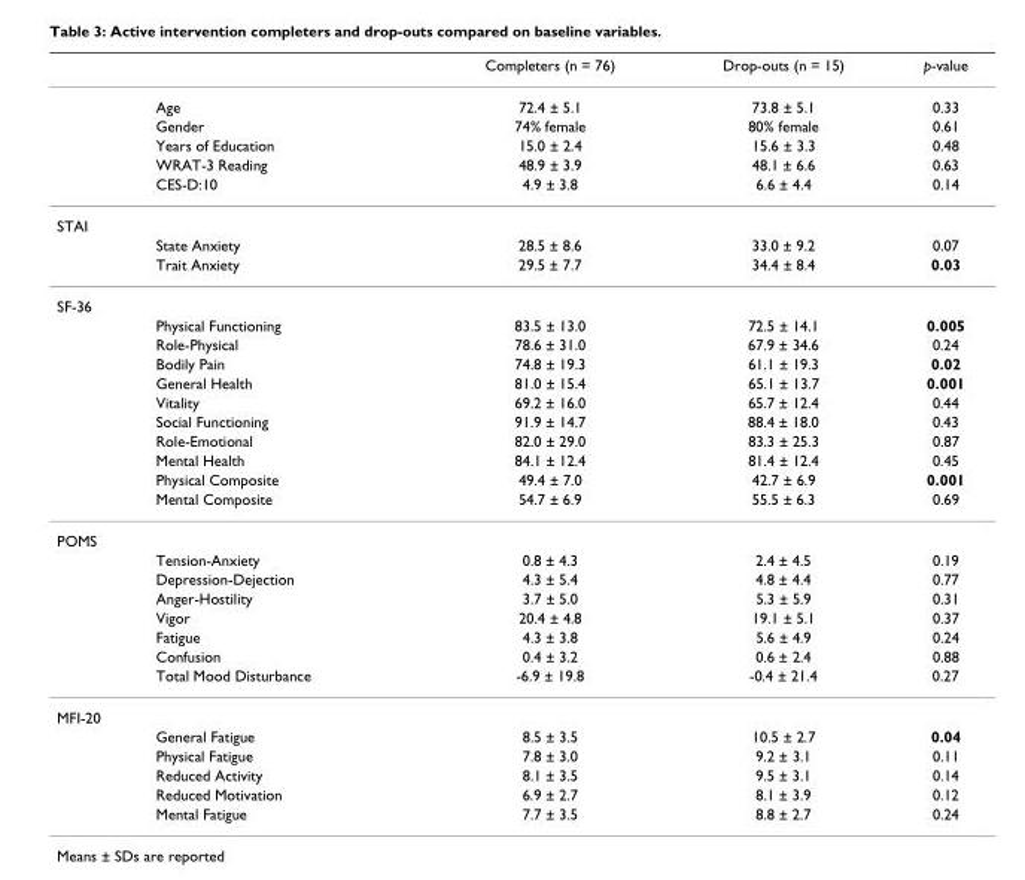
<table><thead><tr><td></td><td></td><td>Completers (n = 76)</td><td>Drop-outs (n = 15)</td><td>p-value</td></tr></thead><tbody><tr><td></td><td>Age</td><td>72.4 ± 5.1</td><td>73.8 ± 5.1</td><td>0.33</td></tr><tr><td></td><td>Gender</td><td>74% female</td><td>80% female</td><td>0.61</td></tr><tr><td></td><td>Years of Education</td><td>15.0 ± 2.4</td><td>15.6 ± 3.3</td><td>0.48</td></tr><tr><td></td><td>WRAT-3 Reading</td><td>48.9 ± 3.9</td><td>48.1 ± 6.6</td><td>0.63</td></tr><tr><td></td><td>CES-D:10</td><td>4.9 ± 3.8</td><td>6.6 ± 4.4</td><td>0.14</td></tr><tr><td colspan="5">STAI</td></tr><tr><td></td><td>State Anxiety</td><td>28.5 ± 8.6</td><td>33.0 ± 9.2</td><td>0.07</td></tr><tr><td></td><td>Trait Anxiety</td><td>29.5 ± 7.7</td><td>34.4 ± 8.4</td><td>0.03</td></tr><tr><td colspan="5">SF-36</td></tr><tr><td></td><td>Physical Functioning</td><td>83.5 ± 13.0</td><td>72.5 ± 14.1</td><td>0.005</td></tr><tr><td></td><td>Role-Physical</td><td>78.6 ± 31.0</td><td>67.9 ± 34.6</td><td>0.24</td></tr><tr><td></td><td>Bodily Pain</td><td>74.8 ± 19.3</td><td>61.1 ± 19.3</td><td>0.02</td></tr><tr><td></td><td>General Health</td><td>81.0 ± 15.4</td><td>65.1 ± 13.7</td><td>0.001</td></tr><tr><td></td><td>Vitality</td><td>69.2 ± 16.0</td><td>65.7 ± 12.4</td><td>0.44</td></tr><tr><td></td><td>Social Functioning</td><td>91.9 ± 14.7</td><td>88.4 ± 18.0</td><td>0.43</td></tr><tr><td></td><td>Role-Emotional</td><td>82.0 ± 29.0</td><td>83.3 ± 25.3</td><td>0.87</td></tr><tr><td></td><td>Mental Health</td><td>84.1 ± 12.4</td><td>81.4 ± 12.4</td><td>0.45</td></tr><tr><td></td><td>Physical Composite</td><td>49.4 ± 7.0</td><td>42.7 ± 6.9</td><td>0.001</td></tr><tr><td></td><td>Mental Composite</td><td>54.7 ± 6.9</td><td>55.5 ± 6.3</td><td>0.69</td></tr><tr><td colspan="5">POMS</td></tr><tr><td></td><td>Tension-Anxiety</td><td>0.8 ± 4.3</td><td>2.4 ± 4.5</td><td>0.19</td></tr><tr><td></td><td>Depression-Dejection</td><td>4.3 ± 5.4</td><td>4.8 ± 4.4</td><td>0.77</td></tr><tr><td></td><td>Anger-Hostility</td><td>3.7 ± 5.0</td><td>5.3 ± 5.9</td><td>0.31</td></tr><tr><td></td><td>Vigor</td><td>20.4 ± 4.8</td><td>19.1 ± 5.1</td><td>0.37</td></tr><tr><td></td><td>Fatigue</td><td>4.3 ± 3.8</td><td>5.6 ± 4.9</td><td>0.24</td></tr><tr><td></td><td>Confusion</td><td>0.4 ± 3.2</td><td>0.6 ± 2.4</td><td>0.88</td></tr><tr><td></td><td>Total Mood Disturbance</td><td>-6.9 ± 19.8</td><td>-0.4 ± 21.4</td><td>0.27</td></tr><tr><td colspan="5">MFI-20</td></tr><tr><td></td><td>General Fatigue</td><td>8.5 ± 3.5</td><td>10.5 ± 2.7</td><td>0.04</td></tr><tr><td></td><td>Physical Fatigue</td><td>7.8 ± 3.0</td><td>9.2 ± 3.1</td><td>0.11</td></tr><tr><td></td><td>Reduced Activity</td><td>8.1 ± 3.5</td><td>9.5 ± 3.1</td><td>0.14</td></tr><tr><td></td><td>Reduced Motivation</td><td>6.9 ± 2.7</td><td>8.1 ± 3.9</td><td>0.12</td></tr><tr><td></td><td>Mental Fatigue</td><td>7.7 ± 3.5</td><td>8.8 ± 2.7</td><td>0.24</td></tr></tbody></table>